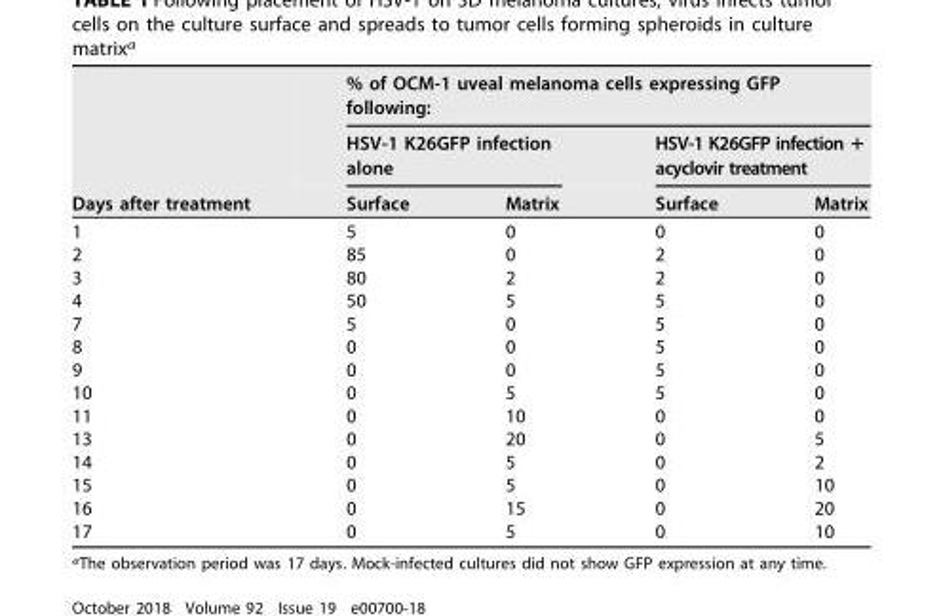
<table><thead><tr><td rowspan="3">Days after treatment</td><td colspan="4">% of OCM-1 uveal melanoma cells expressing GFP following:</td></tr><tr><td colspan="2">HSV-1 K26GFP infection alone</td><td colspan="2">HSV-1 K26GFP infection + acyclovir treatment</td></tr><tr><td>Surface</td><td>Matrix</td><td>Surface</td><td>Matrix</td></tr></thead><tbody><tr><td>1</td><td>5</td><td>0</td><td>0</td><td>0</td></tr><tr><td>2</td><td>85</td><td>0</td><td>2</td><td>0</td></tr><tr><td>3</td><td>80</td><td>2</td><td>2</td><td>0</td></tr><tr><td>4</td><td>50</td><td>5</td><td>5</td><td>0</td></tr><tr><td>7</td><td>5</td><td>0</td><td>5</td><td>0</td></tr><tr><td>8</td><td>0</td><td>0</td><td>5</td><td>0</td></tr><tr><td>9</td><td>0</td><td>0</td><td>5</td><td>0</td></tr><tr><td>10</td><td>0</td><td>5</td><td>5</td><td>0</td></tr><tr><td>11</td><td>0</td><td>10</td><td>0</td><td>0</td></tr><tr><td>13</td><td>0</td><td>20</td><td>0</td><td>5</td></tr><tr><td>14</td><td>0</td><td>5</td><td>0</td><td>2</td></tr><tr><td>15</td><td>0</td><td>5</td><td>0</td><td>10</td></tr><tr><td>16</td><td>0</td><td>15</td><td>0</td><td>20</td></tr><tr><td>17</td><td>0</td><td>5</td><td>0</td><td>10</td></tr></tbody></table>